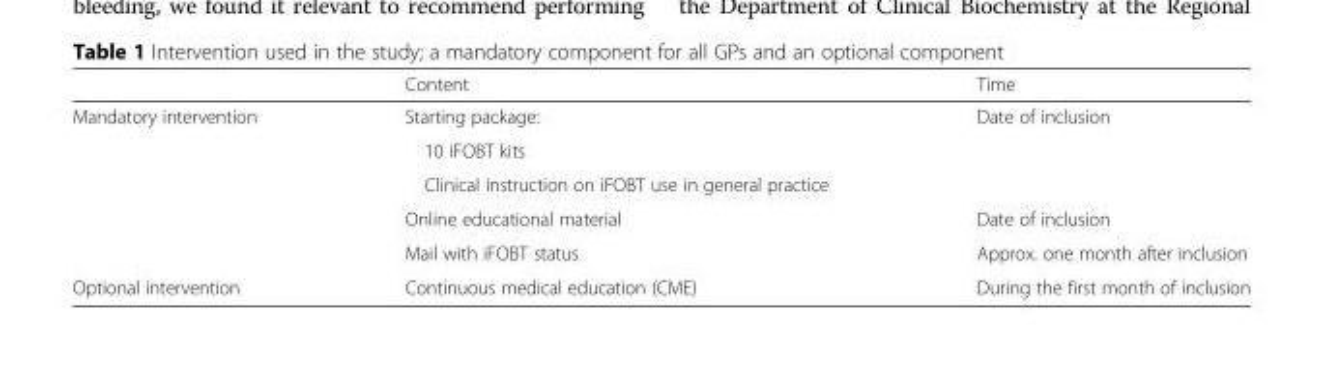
<table><thead><tr><td></td><td>Content</td><td>Time</td></tr></thead><tbody><tr><td rowspan="5">Mandatory intervention</td><td>Starting package:</td><td rowspan="3">Date of inclusion</td></tr><tr><td>10 iFOBT kits</td></tr><tr><td>Clinical instruction on iFOBT use in general practice</td></tr><tr><td>Online educational material</td><td>Date of inclusion</td></tr><tr><td>Mail with iFOBT status</td><td>Approx. one month after inclusion</td></tr><tr><td>Optional intervention</td><td>Continuous medical education (CME)</td><td>During the first month of inclusion</td></tr></tbody></table>